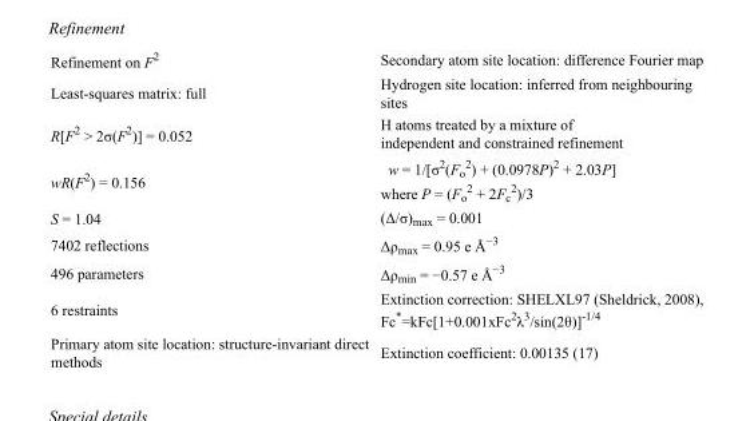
<table><tbody><tr><td>Refinement on F<sup>2</sup></td><td>Secondary atom site location: difference Fourier map</td></tr><tr><td>Least-squares matrix: full</td><td>Hydrogen site location: inferred from neighbouring sites</td></tr><tr><td>R[F<sup>2</sup> &gt; 2σ(F<sup>2</sup>)] = 0.052</td><td>H atoms treated by a mixture of independent and constrained refinement</td></tr><tr><td>wR(F<sup>2</sup>) = 0.156</td><td>w = 1/[σ<sup>2</sup>(F<sub>o</sub> <sup>2</sup>) + (0.0978P)<sup>2</sup> + 2.03P] where P = (F<sub>o</sub> <sup>2</sup> + 2F<sub>c</sub> <sup>2</sup>)/3</td></tr><tr><td>S = 1.04</td><td>(Δ/σ)<sub>max</sub> = 0.001</td></tr><tr><td>7402 reflections</td><td>Δρ<sub>max</sub> = 0.95 e Å<sup>−3</sup></td></tr><tr><td>496 parameters</td><td>Δρ<sub>min</sub> = −0.57 e Å<sup>−3</sup></td></tr><tr><td>6 restraints</td><td>Extinction correction: SHELXL97 (Sheldrick, 2008), Fc*=kFc[1+0.001xFc<sup>2</sup>λ<sup>3</sup>/sin(2θ)]<sup>-1/4</sup></td></tr><tr><td>Primary atom site location: structure-invariant direct methods</td><td>Extinction coefficient: 0.00135 (17)</td></tr></tbody></table>